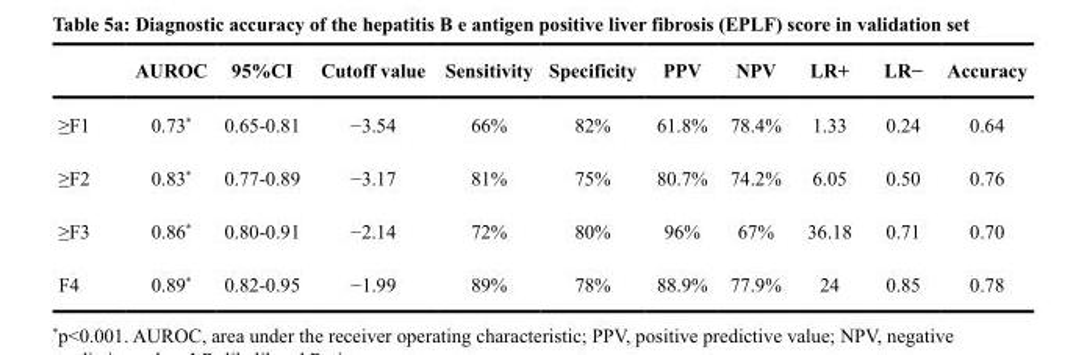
<table><thead><tr><td></td><td>AUROC</td><td>95%CI</td><td>Cutoff value</td><td>Sensitivity</td><td>Specificity</td><td>PPV</td><td>NPV</td><td>LR+</td><td>LR−</td><td>Accuracy</td></tr></thead><tbody><tr><td>≥F1</td><td>0.73*</td><td>0.65-0.81</td><td>−3.54</td><td>66%</td><td>82%</td><td>61.8%</td><td>78.4%</td><td>1.33</td><td>0.24</td><td>0.64</td></tr><tr><td>≥F2</td><td>0.83*</td><td>0.77-0.89</td><td>−3.17</td><td>81%</td><td>75%</td><td>80.7%</td><td>74.2%</td><td>6.05</td><td>0.50</td><td>0.76</td></tr><tr><td>≥F3</td><td>0.86*</td><td>0.80-0.91</td><td>−2.14</td><td>72%</td><td>80%</td><td>96%</td><td>67%</td><td>36.18</td><td>0.71</td><td>0.70</td></tr><tr><td>F4</td><td>0.89*</td><td>0.82-0.95</td><td>−1.99</td><td>89%</td><td>78%</td><td>88.9%</td><td>77.9%</td><td>24</td><td>0.85</td><td>0.78</td></tr></tbody></table>